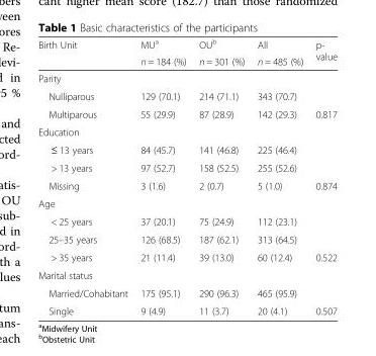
<table><thead><tr><td rowspan="2">Birth Unit</td><td rowspan="2">MU<sup>a</sup> n = 184 (%)</td><td rowspan="2">OU<sup>b</sup> n = 301 (%)</td><td rowspan="2">All n = 485 (%)</td><td rowspan="2">p- value</td></tr><tr></tr></thead><tbody><tr><td colspan="5">Parity</td></tr><tr><td>Nulliparous</td><td>129 (70.1)</td><td>214 (71.1)</td><td>343 (70.7)</td><td></td></tr><tr><td>Multiparous</td><td>55 (29.9)</td><td>87 (28.9)</td><td>142 (29.3)</td><td>0.817</td></tr><tr><td colspan="5">Education</td></tr><tr><td>≤ 13 years</td><td>84 (45.7)</td><td>141 (46.8)</td><td>225 (46.4)</td><td></td></tr><tr><td>&gt; 13 years</td><td>97 (52.7)</td><td>158 (52.5)</td><td>255 (52.6)</td><td></td></tr><tr><td>Missing</td><td>3 (1.6)</td><td>2 (0.7)</td><td>5 (1.0)</td><td>0.874</td></tr><tr><td colspan="5">Age</td></tr><tr><td>&lt; 25 years</td><td>37 (20.1)</td><td>75 (24.9)</td><td>112 (23.1)</td><td></td></tr><tr><td>25–35 years</td><td>126 (68.5)</td><td>187 (62.1)</td><td>313 (64.5)</td><td></td></tr><tr><td>&gt; 35 years</td><td>21 (11.4)</td><td>39 (13.0)</td><td>60 (12.4)</td><td>0.522</td></tr><tr><td colspan="5">Marital status</td></tr><tr><td>Married/Cohabitant</td><td>175 (95.1)</td><td>290 (96.3)</td><td>465 (95.9)</td><td></td></tr><tr><td>Single</td><td>9 (4.9)</td><td>11 (3.7)</td><td>20 (4.1)</td><td>0.507</td></tr></tbody></table>